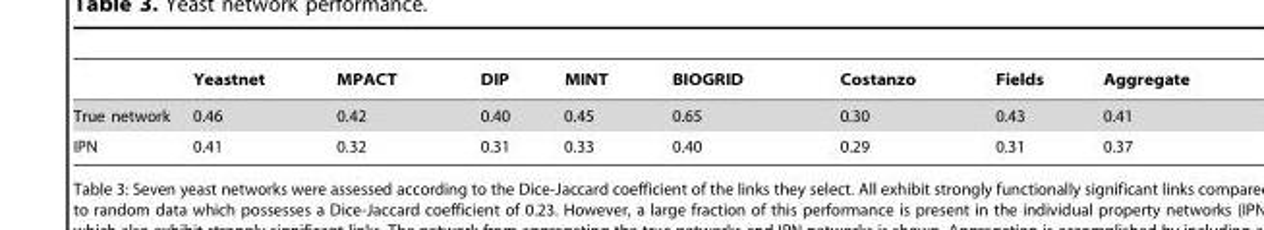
<table><thead><tr><td></td><td>Yeastnet</td><td>MPACT</td><td>DIP</td><td>MINT</td><td>BIOGRID</td><td>Costanzo</td><td>Fields</td><td>Aggregate</td></tr></thead><tbody><tr><td>True network</td><td>0.46</td><td>0.42</td><td>0.40</td><td>0.45</td><td>0.65</td><td>0.30</td><td>0.43</td><td>0.41</td></tr><tr><td>IPN</td><td>0.41</td><td>0.32</td><td>0.31</td><td>0.33</td><td>0.40</td><td>0.29</td><td>0.31</td><td>0.37</td></tr></tbody></table>